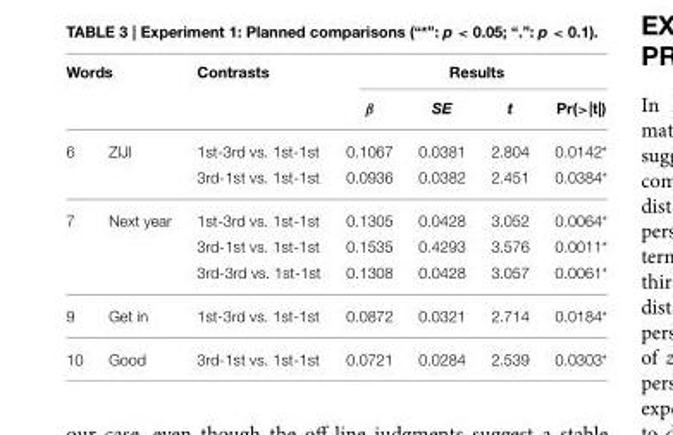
<table><thead><tr><td colspan="2">Words</td><td rowspan="2">Contrasts</td><td colspan="4">Results</td></tr><tr><td></td><td></td><td>β</td><td>SE</td><td>t</td><td>Pr(&gt;|t|)</td></tr></thead><tbody><tr><td rowspan="2">6</td><td>ZIJI</td><td>1st-3rd vs. 1st-1st</td><td>0.1067</td><td>0.0381</td><td>2.804</td><td>0.0142*</td></tr><tr><td></td><td>3rd-1st vs. 1st-1st</td><td>0.0936</td><td>0.0382</td><td>2.451</td><td>0.0384*</td></tr><tr><td rowspan="3">7</td><td>Next year</td><td>1st-3rd vs. 1st-1st</td><td>0.1305</td><td>0.0428</td><td>3.052</td><td>0.0064*</td></tr><tr><td></td><td>3rd-1st vs. 1st-1st</td><td>0.1535</td><td>0.4293</td><td>3.576</td><td>0.0011*</td></tr><tr><td></td><td>3rd-3rd vs. 1st-1st</td><td>0.1308</td><td>0.0428</td><td>3.057</td><td>0.0061*</td></tr><tr><td>9</td><td>Get in</td><td>1st-3rd vs. 1st-1st</td><td>0.0872</td><td>0.0321</td><td>2.714</td><td>0.0184*</td></tr><tr><td>10</td><td>Good</td><td>3rd-1st vs. 1st-1st</td><td>0.0721</td><td>0.0284</td><td>2.539</td><td>0.0303*</td></tr></tbody></table>